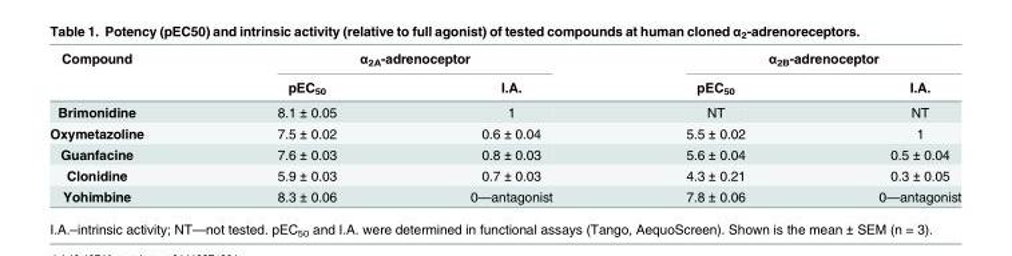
<table><thead><tr><td rowspan="2">Compound</td><td colspan="2">α<sub>2A</sub>-adrenoceptor</td><td colspan="2">α<sub>2B</sub>-adrenoceptor</td></tr><tr><td>pEC<sub>50</sub></td><td>I.A.</td><td>pEC<sub>50</sub></td><td>I.A.</td></tr></thead><tbody><tr><td>Brimonidine</td><td>8.1 ± 0.05</td><td>1</td><td>NT</td><td>NT</td></tr><tr><td>Oxymetazoline</td><td>7.5 ± 0.02</td><td>0.6 ± 0.04</td><td>5.5 ± 0.02</td><td>1</td></tr><tr><td>Guanfacine</td><td>7.6 ± 0.03</td><td>0.8 ± 0.03</td><td>5.6 ± 0.04</td><td>0.5 ± 0.04</td></tr><tr><td>Clonidine</td><td>5.9 ± 0.03</td><td>0.7 ± 0.03</td><td>4.3 ± 0.21</td><td>0.3 ± 0.05</td></tr><tr><td>Yohimbine</td><td>8.3 ± 0.06</td><td>0—antagonist</td><td>7.8 ± 0.06</td><td>0—antagonist</td></tr></tbody></table>